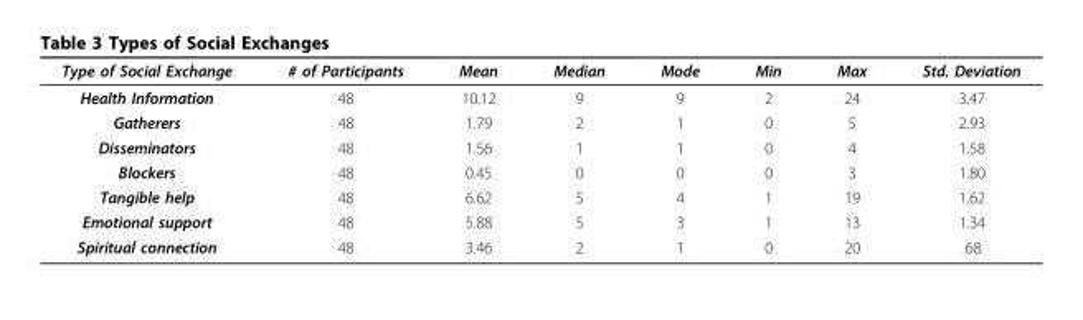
<table><thead><tr><td>Type of Social Exchange</td><td># of Participants</td><td>Mean</td><td>Median</td><td>Mode</td><td>Min</td><td>Max</td><td>Std. Deviation</td></tr></thead><tbody><tr><td>Health Information</td><td>48</td><td>10.12</td><td>9</td><td>9</td><td>2</td><td>24</td><td>3.47</td></tr><tr><td>Gatherers</td><td>48</td><td>1.79</td><td>2</td><td>1</td><td>0</td><td>5</td><td>2.93</td></tr><tr><td>Disseminators</td><td>48</td><td>1.56</td><td>1</td><td>1</td><td>0</td><td>4</td><td>1.58</td></tr><tr><td>Blockers</td><td>48</td><td>0.45</td><td>0</td><td>0</td><td>0</td><td>3</td><td>1.80</td></tr><tr><td>Tangible help</td><td>48</td><td>6.62</td><td>5</td><td>4</td><td>1</td><td>19</td><td>1.62</td></tr><tr><td>Emotional support</td><td>48</td><td>5.88</td><td>5</td><td>3</td><td>1</td><td>13</td><td>1.34</td></tr><tr><td>Spiritual connection</td><td>48</td><td>3.46</td><td>2</td><td>1</td><td>0</td><td>20</td><td>.68</td></tr></tbody></table>